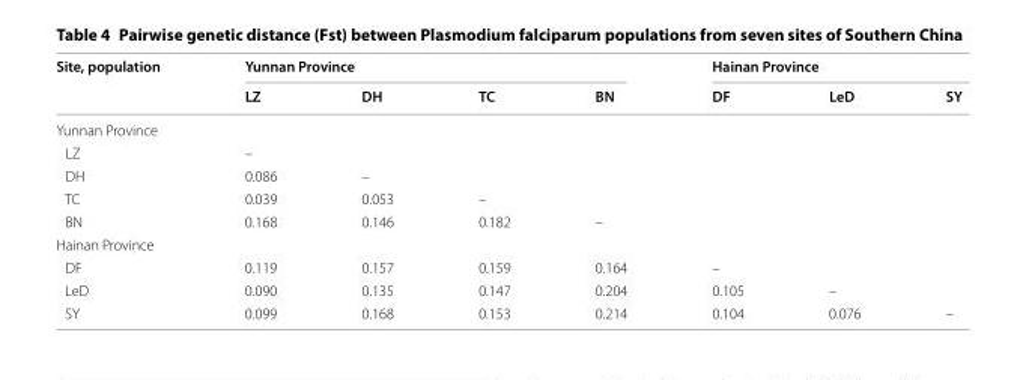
<table><thead><tr><td rowspan="2">Site, population</td><td colspan="4">Yunnan Province</td><td colspan="3">Hainan Province</td></tr><tr><td>LZ</td><td>DH</td><td>TC</td><td>BN</td><td>DF</td><td>LeD</td><td>SY</td></tr></thead><tbody><tr><td colspan="8">Yunnan Province</td></tr><tr><td>LZ</td><td>–</td><td></td><td></td><td></td><td></td><td></td><td></td></tr><tr><td>DH</td><td>0.086</td><td>–</td><td></td><td></td><td></td><td></td><td></td></tr><tr><td>TC</td><td>0.039</td><td>0.053</td><td>–</td><td></td><td></td><td></td><td></td></tr><tr><td>BN</td><td>0.168</td><td>0.146</td><td>0.182</td><td>–</td><td></td><td></td><td></td></tr><tr><td colspan="8">Hainan Province</td></tr><tr><td>DF</td><td>0.119</td><td>0.157</td><td>0.159</td><td>0.164</td><td>–</td><td></td><td></td></tr><tr><td>LeD</td><td>0.090</td><td>0.135</td><td>0.147</td><td>0.204</td><td>0.105</td><td>–</td><td></td></tr><tr><td>SY</td><td>0.099</td><td>0.168</td><td>0.153</td><td>0.214</td><td>0.104</td><td>0.076</td><td>–</td></tr></tbody></table>